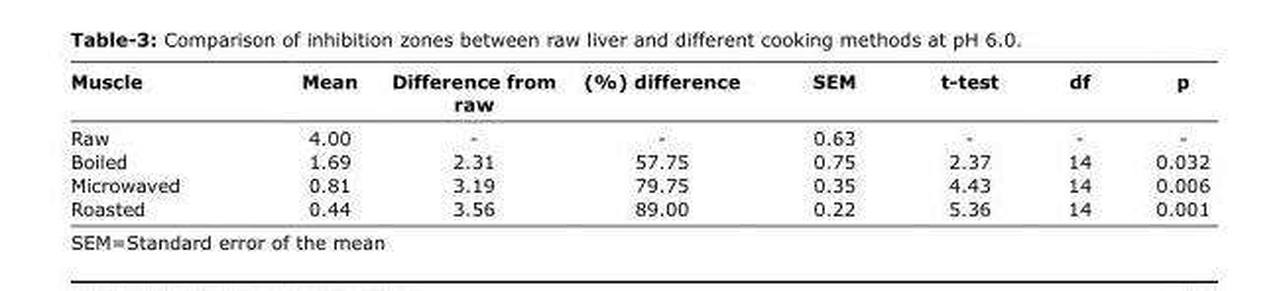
<table><thead><tr><td>Muscle</td><td>Mean</td><td>Difference from raw</td><td>(%) difference</td><td>SEM</td><td>t-test</td><td>df</td><td>p</td></tr></thead><tbody><tr><td>Raw</td><td>4.00</td><td>-</td><td>-</td><td>0.63</td><td>-</td><td>-</td><td>-</td></tr><tr><td>Boiled</td><td>1.69</td><td>2.31</td><td>57.75</td><td>0.75</td><td>2.37</td><td>14</td><td>0.032</td></tr><tr><td>Microwaved</td><td>0.81</td><td>3.19</td><td>79.75</td><td>0.35</td><td>4.43</td><td>14</td><td>0.006</td></tr><tr><td>Roasted</td><td>0.44</td><td>3.56</td><td>89.00</td><td>0.22</td><td>5.36</td><td>14</td><td>0.001</td></tr></tbody></table>